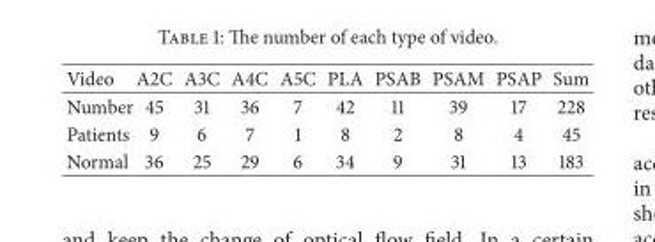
<table><thead><tr><td>Video</td><td>A2C</td><td>A3C</td><td>A4C</td><td>A5C</td><td>PLA</td><td>PSAB</td><td>PSAM</td><td>PSAP</td><td>Sum</td></tr></thead><tbody><tr><td>Number</td><td>45</td><td>31</td><td>36</td><td>7</td><td>42</td><td>11</td><td>39</td><td>17</td><td>228</td></tr><tr><td>Patients</td><td>9</td><td>6</td><td>7</td><td>1</td><td>8</td><td>2</td><td>8</td><td>4</td><td>45</td></tr><tr><td>Normal</td><td>36</td><td>25</td><td>29</td><td>6</td><td>34</td><td>9</td><td>31</td><td>13</td><td>183</td></tr></tbody></table>